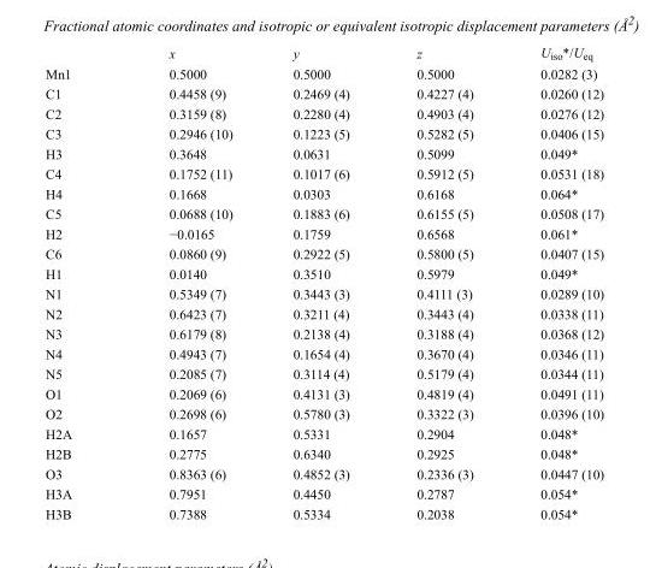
<table><thead><tr><td></td><td>x</td><td>y</td><td>z</td><td>U<sub>iso</sub>*/U<sub>eq</sub></td></tr></thead><tbody><tr><td>Mn1</td><td>0.5000</td><td>0.5000</td><td>0.5000</td><td>0.0282 (3)</td></tr><tr><td>C1</td><td>0.4458 (9)</td><td>0.2469 (4)</td><td>0.4227 (4)</td><td>0.0260 (12)</td></tr><tr><td>C2</td><td>0.3159 (8)</td><td>0.2280 (4)</td><td>0.4903 (4)</td><td>0.0276 (12)</td></tr><tr><td>C3</td><td>0.2946 (10)</td><td>0.1223 (5)</td><td>0.5282 (5)</td><td>0.0406 (15)</td></tr><tr><td>H3</td><td>0.3648</td><td>0.0631</td><td>0.5099</td><td>0.049*</td></tr><tr><td>C4</td><td>0.1752 (11)</td><td>0.1017 (6)</td><td>0.5912 (5)</td><td>0.0531 (18)</td></tr><tr><td>H4</td><td>0.1668</td><td>0.0303</td><td>0.6168</td><td>0.064*</td></tr><tr><td>C5</td><td>0.0688 (10)</td><td>0.1883 (6)</td><td>0.6155 (5)</td><td>0.0508 (17)</td></tr><tr><td>H2</td><td>−0.0165</td><td>0.1759</td><td>0.6568</td><td>0.061*</td></tr><tr><td>C6</td><td>0.0860 (9)</td><td>0.2922 (5)</td><td>0.5800 (5)</td><td>0.0407 (15)</td></tr><tr><td>H1</td><td>0.0140</td><td>0.3510</td><td>0.5979</td><td>0.049*</td></tr><tr><td>N1</td><td>0.5349 (7)</td><td>0.3443 (3)</td><td>0.4111 (3)</td><td>0.0289 (10)</td></tr><tr><td>N2</td><td>0.6423 (7)</td><td>0.3211 (4)</td><td>0.3443 (4)</td><td>0.0338 (11)</td></tr><tr><td>N3</td><td>0.6179 (8)</td><td>0.2138 (4)</td><td>0.3188 (4)</td><td>0.0368 (12)</td></tr><tr><td>N4</td><td>0.4943 (7)</td><td>0.1654 (4)</td><td>0.3670 (4)</td><td>0.0346 (11)</td></tr><tr><td>N5</td><td>0.2085 (7)</td><td>0.3114 (4)</td><td>0.5179 (4)</td><td>0.0344 (11)</td></tr><tr><td>O1</td><td>0.2069 (6)</td><td>0.4131 (3)</td><td>0.4819 (4)</td><td>0.0491 (11)</td></tr><tr><td>O2</td><td>0.2698 (6)</td><td>0.5780 (3)</td><td>0.3322 (3)</td><td>0.0396 (10)</td></tr><tr><td>H2A</td><td>0.1657</td><td>0.5331</td><td>0.2904</td><td>0.048*</td></tr><tr><td>H2B</td><td>0.2775</td><td>0.6340</td><td>0.2925</td><td>0.048*</td></tr><tr><td>O3</td><td>0.8363 (6)</td><td>0.4852 (3)</td><td>0.2336 (3)</td><td>0.0447 (10)</td></tr><tr><td>H3A</td><td>0.7951</td><td>0.4450</td><td>0.2787</td><td>0.054*</td></tr><tr><td>H3B</td><td>0.7388</td><td>0.5334</td><td>0.2038</td><td>0.054*</td></tr></tbody></table>